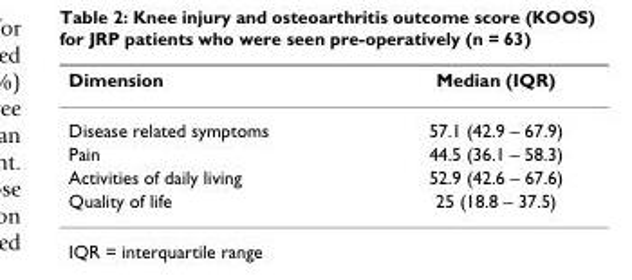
<table><thead><tr><td>Dimension</td><td>Median (IQR)</td></tr></thead><tbody><tr><td>Disease related symptoms</td><td>57.1 (42.9 – 67.9)</td></tr><tr><td>Pain</td><td>44.5 (36.1 – 58.3)</td></tr><tr><td>Activities of daily living</td><td>52.9 (42.6 – 67.6)</td></tr><tr><td>Quality of life</td><td>25 (18.8 – 37.5)</td></tr></tbody></table>